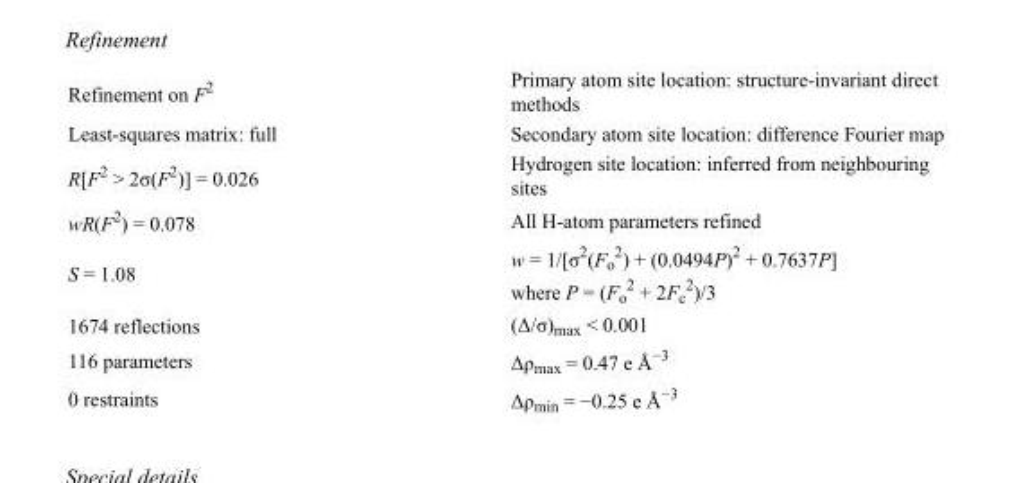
<table><tbody><tr><td>Refinement on F<sup>2</sup></td><td>Primary atom site location: structure-invariant direct methods</td></tr><tr><td>Least-squares matrix: full</td><td>Secondary atom site location: difference Fourier map</td></tr><tr><td>R[F<sup>2</sup> &gt; 2σ(F<sup>2</sup>)] = 0.026</td><td>Hydrogen site location: inferred from neighbouring sites</td></tr><tr><td>wR(F<sup>2</sup>) = 0.078</td><td>All H-atom parameters refined</td></tr><tr><td>S = 1.08</td><td>w = 1/[σ<sup>2</sup>(F<sub>o</sub> <sup>2</sup>) + (0.0494P)<sup>2</sup> + 0.7637P] where P = (F<sub>o</sub> <sup>2</sup> + 2F<sub>c</sub> <sup>2</sup>)/3</td></tr><tr><td>1674 reflections</td><td>(Δ/σ)<sub>max</sub> &lt; 0.001</td></tr><tr><td>116 parameters</td><td>Δρ<sub>max</sub> = 0.47 e Å<sup>−3</sup></td></tr><tr><td>0 restraints</td><td>Δρ<sub>min</sub> = −0.25 e Å<sup>−3</sup></td></tr></tbody></table>